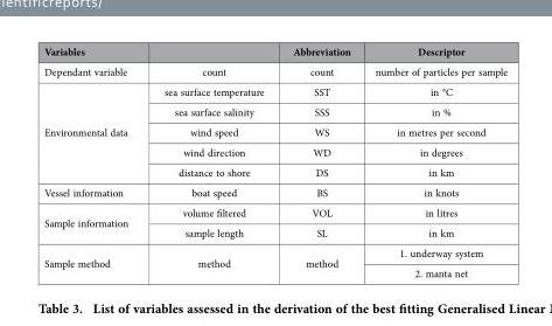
<table><thead><tr><td>Variables</td><td></td><td>Abbreviation</td><td>Descriptor</td></tr></thead><tbody><tr><td>Dependant variable</td><td>count</td><td>count</td><td>number of particles per sample</td></tr><tr><td rowspan="5">Environmental data</td><td>sea surface temperature</td><td>SST</td><td>in °C</td></tr><tr><td>sea surface salinity</td><td>SSS</td><td>in %</td></tr><tr><td>wind speed</td><td>WS</td><td>in metres per second</td></tr><tr><td>wind direction</td><td>WD</td><td>in degrees</td></tr><tr><td>distance to shore</td><td>DS</td><td>in km</td></tr><tr><td>Vessel information</td><td>boat speed</td><td>BS</td><td>in knots</td></tr><tr><td rowspan="2">Sample information</td><td>volume filtered</td><td>VOL</td><td>in litres</td></tr><tr><td>sample length</td><td>SL</td><td>in km</td></tr><tr><td rowspan="2">Sample method</td><td rowspan="2">method</td><td rowspan="2">method</td><td>1. underway system</td></tr><tr><td>2. manta net</td></tr></tbody></table>